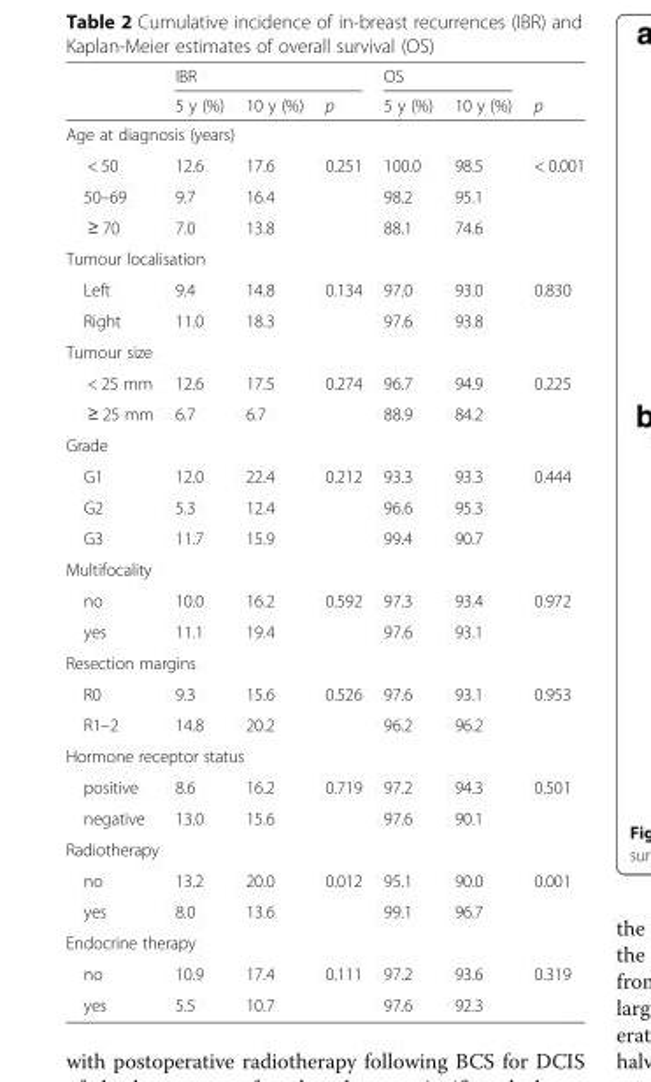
<table><thead><tr><td rowspan="2"></td><td colspan="3">IBR</td><td colspan="2">OS</td><td rowspan="2">p</td></tr><tr><td>5 y (%)</td><td>10 y (%)</td><td>p</td><td>5 y (%)</td><td>10 y (%)</td></tr></thead><tbody><tr><td colspan="7">Age at diagnosis (years)</td></tr><tr><td>&lt; 50</td><td>12.6</td><td>17.6</td><td>0.251</td><td>100.0</td><td>98.5</td><td>&lt; 0.001</td></tr><tr><td>50–69</td><td>9.7</td><td>16.4</td><td></td><td>98.2</td><td>95.1</td><td></td></tr><tr><td>≥ 70</td><td>7.0</td><td>13.8</td><td></td><td>88.1</td><td>74.6</td><td></td></tr><tr><td colspan="7">Tumour localisation</td></tr><tr><td>Left</td><td>9.4</td><td>14.8</td><td>0.134</td><td>97.0</td><td>93.0</td><td>0.830</td></tr><tr><td>Right</td><td>11.0</td><td>18.3</td><td></td><td>97.6</td><td>93.8</td><td></td></tr><tr><td colspan="7">Tumour size</td></tr><tr><td>&lt; 25 mm</td><td>12.6</td><td>17.5</td><td>0.274</td><td>96.7</td><td>94.9</td><td>0.225</td></tr><tr><td>≥ 25 mm</td><td>6.7</td><td>6.7</td><td></td><td>88.9</td><td>84.2</td><td></td></tr><tr><td colspan="7">Grade</td></tr><tr><td>G1</td><td>12.0</td><td>22.4</td><td>0.212</td><td>93.3</td><td>93.3</td><td>0.444</td></tr><tr><td>G2</td><td>5.3</td><td>12.4</td><td></td><td>96.6</td><td>95.3</td><td></td></tr><tr><td>G3</td><td>11.7</td><td>15.9</td><td></td><td>99.4</td><td>90.7</td><td></td></tr><tr><td colspan="7">Multifocality</td></tr><tr><td>no</td><td>10.0</td><td>16.2</td><td>0.592</td><td>97.3</td><td>93.4</td><td>0.972</td></tr><tr><td>yes</td><td>11.1</td><td>19.4</td><td></td><td>97.6</td><td>93.1</td><td></td></tr><tr><td colspan="7">Resection margins</td></tr><tr><td>R0</td><td>9.3</td><td>15.6</td><td>0.526</td><td>97.6</td><td>93.1</td><td>0.953</td></tr><tr><td>R1–2</td><td>14.8</td><td>20.2</td><td></td><td>96.2</td><td>96.2</td><td></td></tr><tr><td colspan="7">Hormone receptor status</td></tr><tr><td>positive</td><td>8.6</td><td>16.2</td><td>0.719</td><td>97.2</td><td>94.3</td><td>0.501</td></tr><tr><td>negative</td><td>13.0</td><td>15.6</td><td></td><td>97.6</td><td>90.1</td><td></td></tr><tr><td colspan="7">Radiotherapy</td></tr><tr><td>no</td><td>13.2</td><td>20.0</td><td>0.012</td><td>95.1</td><td>90.0</td><td>0.001</td></tr><tr><td>yes</td><td>8.0</td><td>13.6</td><td></td><td>99.1</td><td>96.7</td><td></td></tr><tr><td colspan="7">Endocrine therapy</td></tr><tr><td>no</td><td>10.9</td><td>17.4</td><td>0.111</td><td>97.2</td><td>93.6</td><td>0.319</td></tr><tr><td>yes</td><td>5.5</td><td>10.7</td><td></td><td>97.6</td><td>92.3</td><td></td></tr></tbody></table>